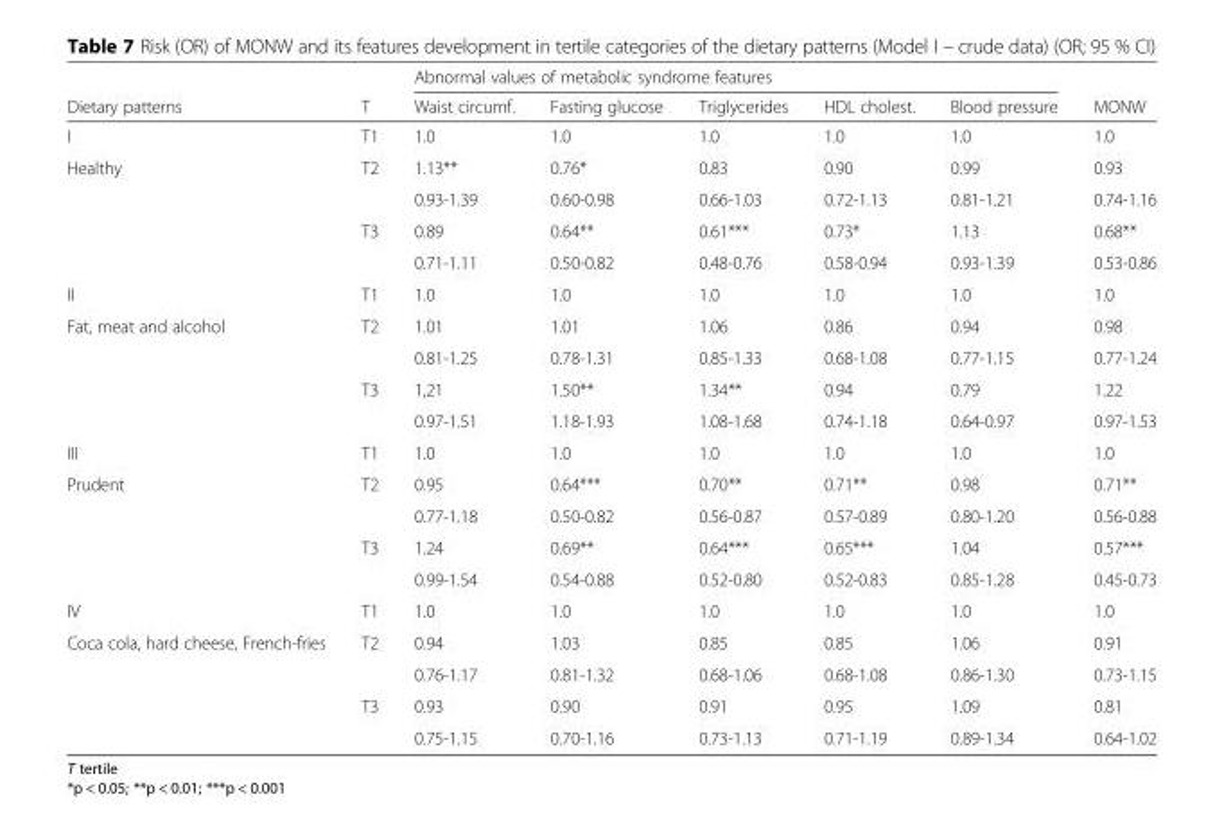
<table><thead><tr><td rowspan="2">Dietary patterns</td><td rowspan="2">T</td><td colspan="5">Abnormal values of metabolic syndrome features</td><td rowspan="2">MONW</td></tr><tr><td>Waist circumf.</td><td>Fasting glucose</td><td>Triglycerides</td><td>HDL cholest.</td><td>Blood pressure</td></tr></thead><tbody><tr><td>I</td><td>T1</td><td>1.0</td><td>1.0</td><td>1.0</td><td>1.0</td><td>1.0</td><td>1.0</td></tr><tr><td rowspan="4">Healthy</td><td rowspan="2">T2</td><td>1.13**</td><td>0.76*</td><td>0.83</td><td>0.90</td><td>0.99</td><td>0.93</td></tr><tr><td>0.93-1.39</td><td>0.60-0.98</td><td>0.66-1.03</td><td>0.72-1.13</td><td>0.81-1.21</td><td>0.74-1.16</td></tr><tr><td rowspan="2">T3</td><td>0.89</td><td>0.64**</td><td>0.61***</td><td>0.73*</td><td>1.13</td><td>0.68**</td></tr><tr><td>0.71-1.11</td><td>0.50-0.82</td><td>0.48-0.76</td><td>0.58-0.94</td><td>0.93-1.39</td><td>0.53-0.86</td></tr><tr><td>II</td><td>T1</td><td>1.0</td><td>1.0</td><td>1.0</td><td>1.0</td><td>1.0</td><td>1.0</td></tr><tr><td rowspan="4">Fat, meat and alcohol</td><td rowspan="2">T2</td><td>1.01</td><td>1.01</td><td>1.06</td><td>0.86</td><td>0.94</td><td>0.98</td></tr><tr><td>0.81-1.25</td><td>0.78-1.31</td><td>0.85-1.33</td><td>0.68-1.08</td><td>0.77-1.15</td><td>0.77-1.24</td></tr><tr><td rowspan="2">T3</td><td>1,21</td><td>1.50**</td><td>1.34**</td><td>0.94</td><td>0.79</td><td>1.22</td></tr><tr><td>0.97-1.51</td><td>1.18-1.93</td><td>1.08-1.68</td><td>0.74-1.18</td><td>0.64-0.97</td><td>0.97-1.53</td></tr><tr><td>III</td><td>T1</td><td>1.0</td><td>1.0</td><td>1.0</td><td>1.0</td><td>1.0</td><td>1.0</td></tr><tr><td rowspan="4">Prudent</td><td rowspan="2">T2</td><td>0.95</td><td>0.64***</td><td>0.70**</td><td>0.71**</td><td>0.98</td><td>0.71**</td></tr><tr><td>0.77-1.18</td><td>0.50-0.82</td><td>0.56-0.87</td><td>0.57-0.89</td><td>0.80-1.20</td><td>0.56-0.88</td></tr><tr><td rowspan="2">T3</td><td>1.24</td><td>0.69**</td><td>0.64***</td><td>0.65***</td><td>1.04</td><td>0.57***</td></tr><tr><td>0.99-1.54</td><td>0.54-0.88</td><td>0.52-0.80</td><td>0.52-0.83</td><td>0.85-1.28</td><td>0.45-0.73</td></tr><tr><td>IV</td><td>T1</td><td>1.0</td><td>1.0</td><td>1.0</td><td>1.0</td><td>1.0</td><td>1.0</td></tr><tr><td rowspan="4">Coca cola, hard cheese, French-fries</td><td rowspan="2">T2</td><td>0.94</td><td>1.03</td><td>0.85</td><td>0.85</td><td>1.06</td><td>0.91</td></tr><tr><td>0.76-1.17</td><td>0.81-1.32</td><td>0.68-1.06</td><td>0.68-1.08</td><td>0.86-1.30</td><td>0.73-1.15</td></tr><tr><td rowspan="2">T3</td><td>0.93</td><td>0.90</td><td>0.91</td><td>0.95</td><td>1.09</td><td>0.81</td></tr><tr><td>0.75-1.15</td><td>0.70-1.16</td><td>0.73-1.13</td><td>0.71-1.19</td><td>0.89-1.34</td><td>0.64-1.02</td></tr></tbody></table>